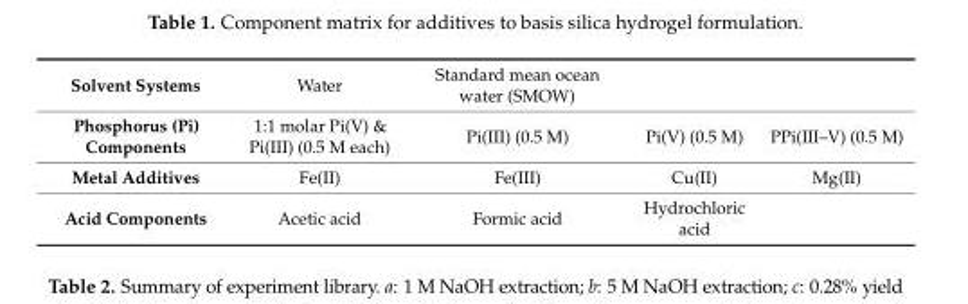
<table><tbody><tr><td>Solvent Systems</td><td>Water</td><td>Standard mean ocean water (SMOW)</td><td></td><td></td></tr><tr><td>Phosphorus (Pi) Components</td><td>1:1 molar Pi(V) &amp; Pi(III) (0.5 M each)</td><td>Pi(III) (0.5 M)</td><td>Pi(V) (0.5 M)</td><td>PPi(III–V) (0.5 M)</td></tr><tr><td>Metal Additives</td><td>Fe(II)</td><td>Fe(III)</td><td>Cu(II)</td><td>Mg(II)</td></tr><tr><td>Acid Components</td><td>Acetic acid</td><td>Formic acid</td><td>Hydrochloric acid</td><td></td></tr></tbody></table>